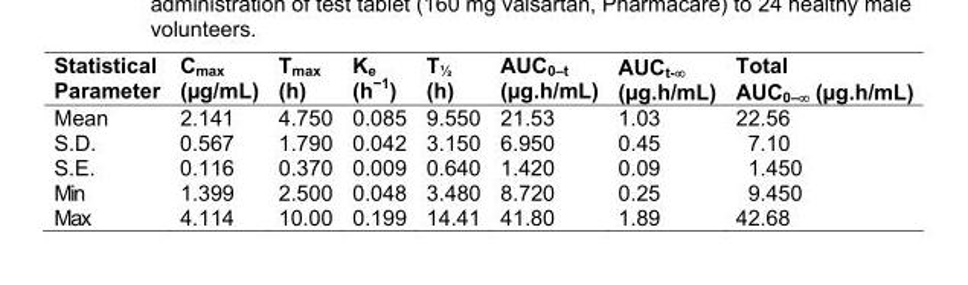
<table><thead><tr><td>Statistical Parameter</td><td>C<sub>max</sub> (µg/mL)</td><td>T<sub>max</sub> (h)</td><td>K<sub>e</sub> (h<sup>−1</sup>)</td><td>T<sub>½</sub> (h)</td><td>AUC<sub>0–t</sub> (µg.h/mL)</td><td>AUC<sub>t-∞</sub> (µg.h/mL)</td><td>Total AUC<sub>0–∞</sub> (µg.h/mL)</td></tr></thead><tbody><tr><td>Mean</td><td>2.141</td><td>4.750</td><td>0.085</td><td>9.550</td><td>21.53</td><td>1.03</td><td>22.56</td></tr><tr><td>S.D.</td><td>0.567</td><td>1.790</td><td>0.042</td><td>3.150</td><td>6.950</td><td>0.45</td><td>7.10</td></tr><tr><td>S.E.</td><td>0.116</td><td>0.370</td><td>0.009</td><td>0.640</td><td>1.420</td><td>0.09</td><td>1.450</td></tr><tr><td>Min</td><td>1.399</td><td>2.500</td><td>0.048</td><td>3.480</td><td>8.720</td><td>0.25</td><td>9.450</td></tr><tr><td>Max</td><td>4.114</td><td>10.00</td><td>0.199</td><td>14.41</td><td>41.80</td><td>1.89</td><td>42.68</td></tr></tbody></table>